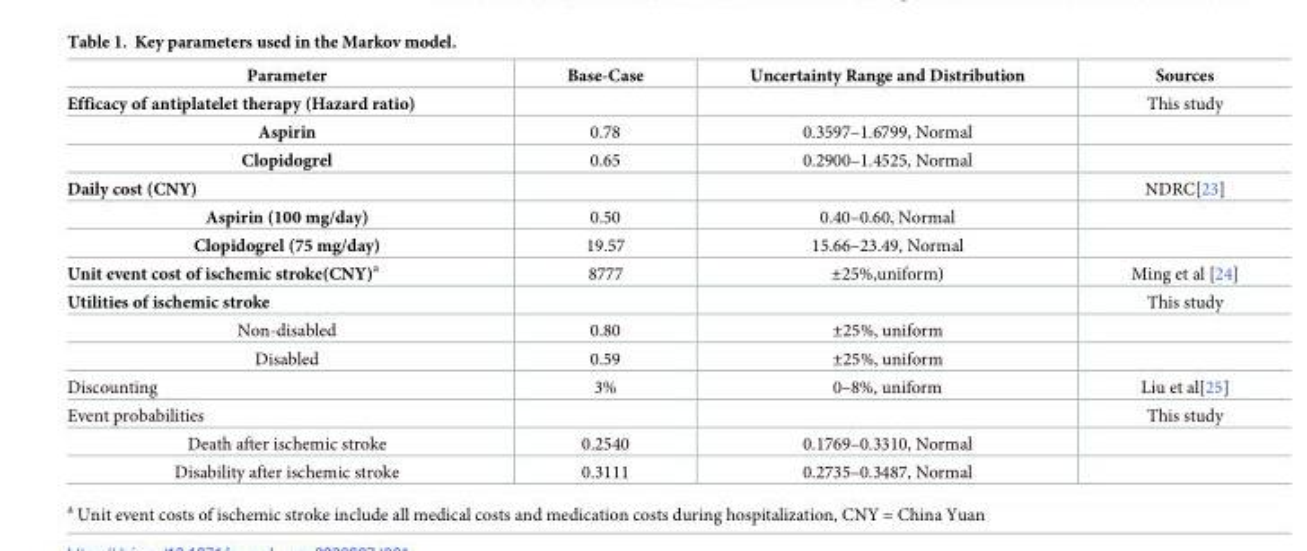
<table><thead><tr><td>Parameter</td><td>Base-Case</td><td>Uncertainty Range and Distribution</td><td>Sources</td></tr></thead><tbody><tr><td>Efficacy of antiplatelet therapy (Hazard ratio)</td><td></td><td></td><td>This study</td></tr><tr><td>Aspirin</td><td>0.78</td><td>0.3597–1.6799, Normal</td><td></td></tr><tr><td>Clopidogrel</td><td>0.65</td><td>0.2900–1.4525, Normal</td><td></td></tr><tr><td>Daily cost (CNY)</td><td></td><td></td><td>NDRC[23]</td></tr><tr><td>Aspirin (100 mg/day)</td><td>0.50</td><td>0.40–0.60, Normal</td><td></td></tr><tr><td>Clopidogrel (75 mg/day)</td><td>19.57</td><td>15.66–23.49, Normal</td><td></td></tr><tr><td>Unit event cost of ischemic stroke(CNY)<sup>a</sup></td><td>8777</td><td>±25%,uniform)</td><td>Ming et al [24]</td></tr><tr><td>Utilities of ischemic stroke</td><td></td><td></td><td>This study</td></tr><tr><td>Non-disabled</td><td>0.80</td><td>±25%, uniform</td><td></td></tr><tr><td>Disabled</td><td>0.59</td><td>±25%, uniform</td><td></td></tr><tr><td>Discounting</td><td>3%</td><td>0–8%, uniform</td><td>Liu et al[25]</td></tr><tr><td>Event probabilities</td><td></td><td></td><td>This study</td></tr><tr><td>Death after ischemic stroke</td><td>0.2540</td><td>0.1769–0.3310, Normal</td><td></td></tr><tr><td>Disability after ischemic stroke</td><td>0.3111</td><td>0.2735–0.3487, Normal</td><td></td></tr></tbody></table>